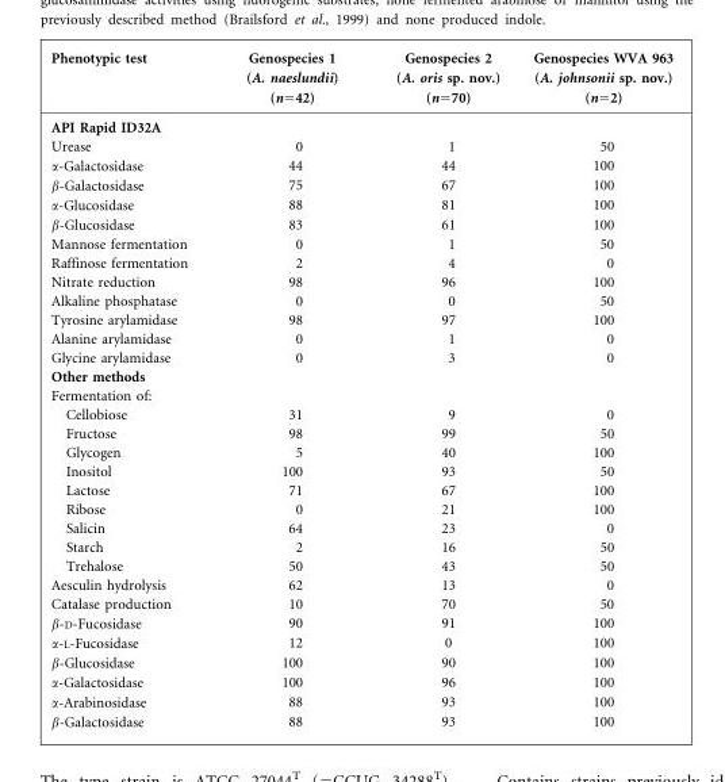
<table><thead><tr><td>Phenotypic test</td><td>Genospecies 1 (A. naeslundii) (n=42)</td><td>Genospecies 2 (A. oris sp. nov.) (n=70)</td><td>Genospecies WVA 963 (A. johnsonii sp. nov.) (n=2)</td></tr></thead><tbody><tr><td colspan="4">API Rapid ID32A</td></tr><tr><td>Urease</td><td>0</td><td>1</td><td>50</td></tr><tr><td>α-Galactosidase</td><td>44</td><td>44</td><td>100</td></tr><tr><td>β-Galactosidase</td><td>75</td><td>67</td><td>100</td></tr><tr><td>α-Glucosidase</td><td>88</td><td>81</td><td>100</td></tr><tr><td>β-Glucosidase</td><td>83</td><td>61</td><td>100</td></tr><tr><td>Mannose fermentation</td><td>0</td><td>1</td><td>50</td></tr><tr><td>Raffinose fermentation</td><td>2</td><td>4</td><td>0</td></tr><tr><td>Nitrate reduction</td><td>98</td><td>96</td><td>100</td></tr><tr><td>Alkaline phosphatase</td><td>0</td><td>0</td><td>50</td></tr><tr><td>Tyrosine arylamidase</td><td>98</td><td>97</td><td>100</td></tr><tr><td>Alanine arylamidase</td><td>0</td><td>1</td><td>0</td></tr><tr><td>Glycine arylamidase</td><td>0</td><td>3</td><td>0</td></tr><tr><td colspan="4">Other methods</td></tr><tr><td colspan="4">Fermentation of:</td></tr><tr><td>Cellobiose</td><td>31</td><td>9</td><td>0</td></tr><tr><td>Fructose</td><td>98</td><td>99</td><td>50</td></tr><tr><td>Glycogen</td><td>5</td><td>40</td><td>100</td></tr><tr><td>Inositol</td><td>100</td><td>93</td><td>50</td></tr><tr><td>Lactose</td><td>71</td><td>67</td><td>100</td></tr><tr><td>Ribose</td><td>0</td><td>21</td><td>100</td></tr><tr><td>Salicin</td><td>64</td><td>23</td><td>0</td></tr><tr><td>Starch</td><td>2</td><td>16</td><td>50</td></tr><tr><td>Trehalose</td><td>50</td><td>43</td><td>50</td></tr><tr><td>Aesculin hydrolysis</td><td>62</td><td>13</td><td>0</td></tr><tr><td>Catalase production</td><td>10</td><td>70</td><td>50</td></tr><tr><td>β-D-Fucosidase</td><td>90</td><td>91</td><td>100</td></tr><tr><td>α-L-Fucosidase</td><td>12</td><td>0</td><td>100</td></tr><tr><td>β-Glucosidase</td><td>100</td><td>90</td><td>100</td></tr><tr><td>α-Galactosidase</td><td>100</td><td>96</td><td>100</td></tr><tr><td>α-Arabinosidase</td><td>88</td><td>93</td><td>100</td></tr><tr><td>β-Galactosidase</td><td>88</td><td>93</td><td>100</td></tr></tbody></table>